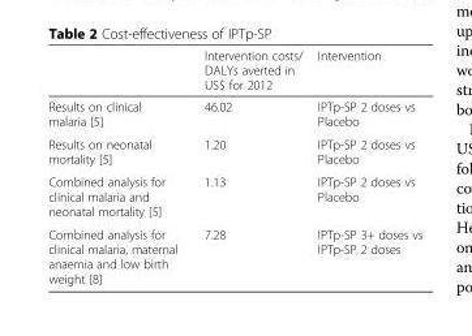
<table><thead><tr><td></td><td>Intervention costs/ DALYs averted in US$ for 2012</td><td>Intervention</td></tr></thead><tbody><tr><td>Results on clinical malaria [5]</td><td>46.02</td><td>IPTp-SP 2 doses vs Placebo</td></tr><tr><td>Results on neonatal mortality [5]</td><td>1.20</td><td>IPTp-SP 2 doses vs Placebo</td></tr><tr><td>Combined analysis for clinical malaria and neonatal mortality [5]</td><td>1.13</td><td>IPTp-SP 2 doses vs Placebo</td></tr><tr><td>Combined analysis for clinical malaria, maternal anaemia and low birth weight [8]</td><td>7.28</td><td>IPTp-SP 3+ doses vs IPTp-SP 2 doses</td></tr></tbody></table>